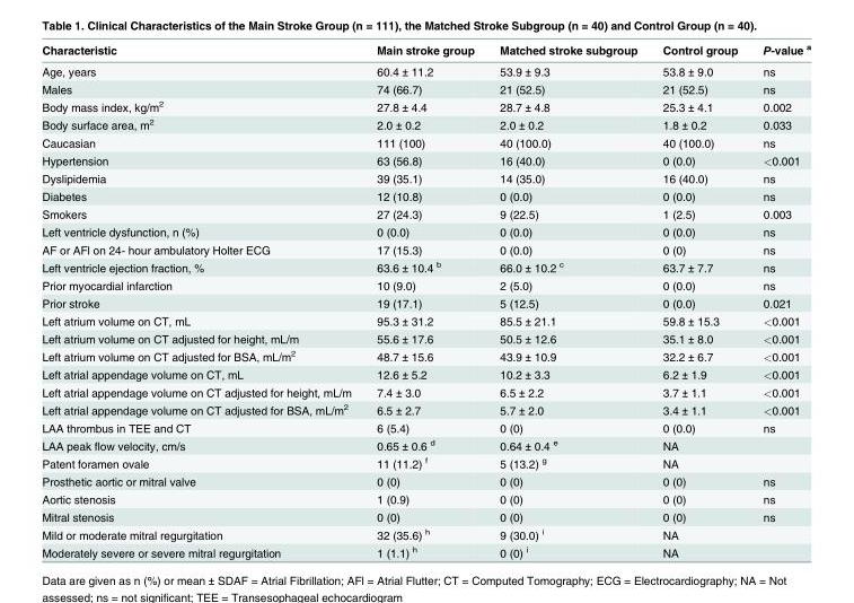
<table><thead><tr><td>Characteristic</td><td>Main stroke group</td><td>Matched stroke subgroup</td><td>Control group</td><td>P-value <sup>a</sup></td></tr></thead><tbody><tr><td>Age, years</td><td>60.4 ± 11.2</td><td>53.9 ± 9.3</td><td>53.8 ± 9.0</td><td>ns</td></tr><tr><td>Males</td><td>74 (66.7)</td><td>21 (52.5)</td><td>21 (52.5)</td><td>ns</td></tr><tr><td>Body mass index, kg/m<sup>2</sup></td><td>27.8 ± 4.4</td><td>28.7 ± 4.8</td><td>25.3 ± 4.1</td><td>0.002</td></tr><tr><td>Body surface area, m<sup>2</sup></td><td>2.0 ± 0.2</td><td>2.0 ± 0.2</td><td>1.8 ± 0.2</td><td>0.033</td></tr><tr><td>Caucasian</td><td>111 (100)</td><td>40 (100.0)</td><td>40 (100.0)</td><td>ns</td></tr><tr><td>Hypertension</td><td>63 (56.8)</td><td>16 (40.0)</td><td>0 (0.0)</td><td>&lt;0.001</td></tr><tr><td>Dyslipidemia</td><td>39 (35.1)</td><td>14 (35.0)</td><td>16 (40.0)</td><td>ns</td></tr><tr><td>Diabetes</td><td>12 (10.8)</td><td>0 (0.0)</td><td>0 (0.0)</td><td>ns</td></tr><tr><td>Smokers</td><td>27 (24.3)</td><td>9 (22.5)</td><td>1 (2.5)</td><td>0.003</td></tr><tr><td>Left ventricle dysfunction, n (%)</td><td>0 (0.0)</td><td>0 (0.0)</td><td>0 (0.0)</td><td>ns</td></tr><tr><td>AF or AFl on 24- hour ambulatory Holter ECG</td><td>17 (15.3)</td><td>0 (0.0)</td><td>0 (0)</td><td>ns</td></tr><tr><td>Left ventricle ejection fraction, %</td><td>63.6 ± 10.4 <sup>b</sup></td><td>66.0 ± 10.2 <sup>c</sup></td><td>63.7 ± 7.7</td><td>ns</td></tr><tr><td>Prior myocardial infarction</td><td>10 (9.0)</td><td>2 (5.0)</td><td>0 (0.0)</td><td>ns</td></tr><tr><td>Prior stroke</td><td>19 (17.1)</td><td>5 (12.5)</td><td>0 (0.0)</td><td>0.021</td></tr><tr><td>Left atrium volume on CT, mL</td><td>95.3 ± 31.2</td><td>85.5 ± 21.1</td><td>59.8 ± 15.3</td><td>&lt;0.001</td></tr><tr><td>Left atrium volume on CT adjusted for height, mL/m</td><td>55.6 ± 17.6</td><td>50.5 ± 12.6</td><td>35.1 ± 8.0</td><td>&lt;0.001</td></tr><tr><td>Left atrium volume on CT adjusted for BSA, mL/m<sup>2</sup></td><td>48.7 ± 15.6</td><td>43.9 ± 10.9</td><td>32.2 ± 6.7</td><td>&lt;0.001</td></tr><tr><td>Left atrial appendage volume on CT, mL</td><td>12.6 ± 5.2</td><td>10.2 ± 3.3</td><td>6.2 ± 1.9</td><td>&lt;0.001</td></tr><tr><td>Left atrial appendage volume on CT adjusted for height, mL/m</td><td>7.4 ± 3.0</td><td>6.5 ± 2.2</td><td>3.7 ± 1.1</td><td>&lt;0.001</td></tr><tr><td>Left atrial appendage volume on CT adjusted for BSA, mL/m<sup>2</sup></td><td>6.5 ± 2.7</td><td>5.7 ± 2.0</td><td>3.4 ± 1.1</td><td>&lt;0.001</td></tr><tr><td>LAA thrombus in TEE and CT</td><td>6 (5.4)</td><td>0 (0)</td><td>0 (0.0)</td><td>ns</td></tr><tr><td>LAA peak flow velocity, cm/s</td><td>0.65 ± 0.6 <sup>d</sup></td><td>0.64 ± 0.4 <sup>e</sup></td><td>NA</td><td></td></tr><tr><td>Patent foramen ovale</td><td>11 (11.2) <sup>f</sup></td><td>5 (13.2) <sup>g</sup></td><td>NA</td><td></td></tr><tr><td>Prosthetic aortic or mitral valve</td><td>0 (0)</td><td>0 (0)</td><td>0 (0)</td><td>ns</td></tr><tr><td>Aortic stenosis</td><td>1 (0.9)</td><td>0 (0)</td><td>0 (0)</td><td>ns</td></tr><tr><td>Mitral stenosis</td><td>0 (0)</td><td>0 (0)</td><td>0 (0)</td><td>ns</td></tr><tr><td>Mild or moderate mitral regurgitation</td><td>32 (35.6) <sup>h</sup></td><td>9 (30.0) <sup>i</sup></td><td>NA</td><td></td></tr><tr><td>Moderately severe or severe mitral regurgitation</td><td>1 (1.1) <sup>h</sup></td><td>0 (0) <sup>i</sup></td><td>NA</td><td></td></tr></tbody></table>